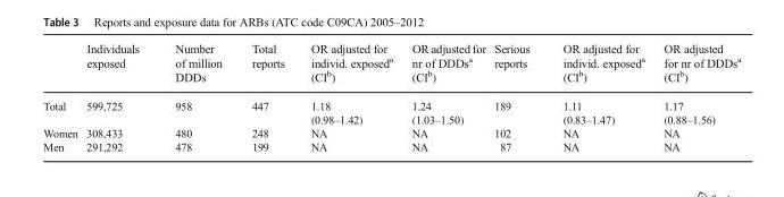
<table><thead><tr><td></td><td>Individuals exposed</td><td>Number of million DDDs</td><td>Total reports</td><td>OR adjusted for individ. exposed<sup>a</sup> (CI<sup>b</sup>)</td><td>OR adjusted for nr of DDDs<sup>a</sup> (CI<sup>b</sup>)</td><td>Serious reports</td><td>OR adjusted for individ. exposed<sup>a</sup> (CI<sup>b</sup>)</td><td>OR adjusted for nr of DDDs<sup>a</sup> (CI<sup>b</sup>)</td></tr></thead><tbody><tr><td>Total</td><td>599,725</td><td>958</td><td>447</td><td>1.18 (0.98–1.42)</td><td>1.24 (1.03–1.50)</td><td>189</td><td>1.11 (0.83–1.47)</td><td>1.17 (0.88–1.56)</td></tr><tr><td>Women</td><td>308,433</td><td>480</td><td>248</td><td>NA</td><td>NA</td><td>102</td><td>NA</td><td>NA</td></tr><tr><td>Men</td><td>291,292</td><td>478</td><td>199</td><td>NA</td><td>NA</td><td>87</td><td>NA</td><td>NA</td></tr></tbody></table>